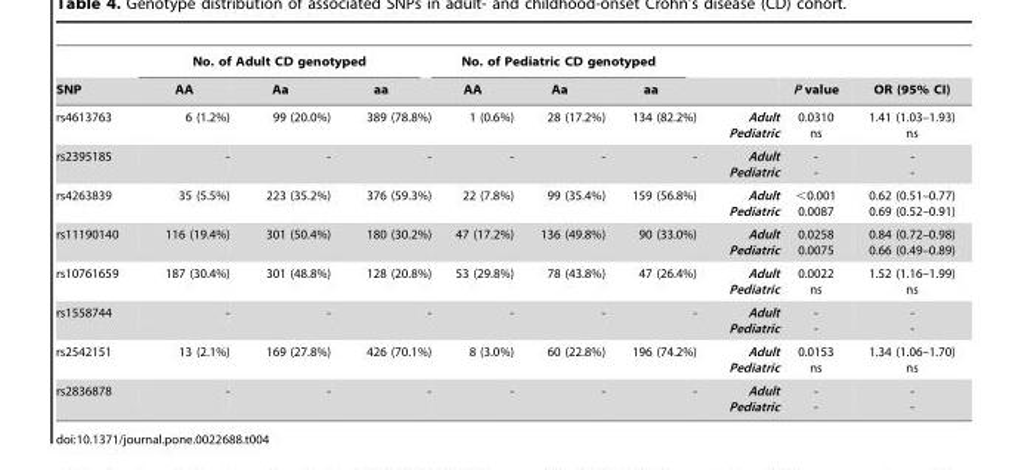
<table><thead><tr><td rowspan="2">SNP</td><td colspan="3">No. of Adult CD genotyped</td><td colspan="3">No. of Pediatric CD genotyped</td><td rowspan="2"></td><td rowspan="2">P value</td><td rowspan="2">OR (95% CI)</td></tr><tr><td>AA</td><td>Aa</td><td>aa</td><td>AA</td><td>Aa</td><td>aa</td></tr></thead><tbody><tr><td>rs4613763</td><td>6 (1.2%)</td><td>99 (20.0%)</td><td>389 (78.8%)</td><td>1 (0.6%)</td><td>28 (17.2%)</td><td>134 (82.2%)</td><td>Adult Pediatric</td><td>0.0310 ns</td><td>1.41 (1.03–1.93) ns</td></tr><tr><td>rs2395185</td><td>-</td><td>-</td><td>-</td><td>-</td><td>-</td><td>-</td><td>Adult Pediatric</td><td>- -</td><td>- -</td></tr><tr><td>rs4263839</td><td>35 (5.5%)</td><td>223 (35.2%)</td><td>376 (59.3%)</td><td>22 (7.8%)</td><td>99 (35.4%)</td><td>159 (56.8%)</td><td>Adult Pediatric</td><td>&lt;0.001 0.0087</td><td>0.62 (0.51–0.77) 0.69 (0.52–0.91)</td></tr><tr><td>rs11190140</td><td>116 (19.4%)</td><td>301 (50.4%)</td><td>180 (30.2%)</td><td>47 (17.2%)</td><td>136 (49.8%)</td><td>90 (33.0%)</td><td>Adult Pediatric</td><td>0.0258 0.0075</td><td>0.84 (0.72–0.98) 0.66 (0.49–0.89)</td></tr><tr><td>rs10761659</td><td>187 (30.4%)</td><td>301 (48.8%)</td><td>128 (20.8%)</td><td>53 (29.8%)</td><td>78 (43.8%)</td><td>47 (26.4%)</td><td>Adult Pediatric</td><td>0.0022 ns</td><td>1.52 (1.16–1.99) ns</td></tr><tr><td>rs1558744</td><td>-</td><td>-</td><td>-</td><td>-</td><td>-</td><td>-</td><td>Adult Pediatric</td><td>- -</td><td>- -</td></tr><tr><td>rs2542151</td><td>13 (2.1%)</td><td>169 (27.8%)</td><td>426 (70.1%)</td><td>8 (3.0%)</td><td>60 (22.8%)</td><td>196 (74.2%)</td><td>Adult Pediatric</td><td>0.0153 ns</td><td>1.34 (1.06–1.70) ns</td></tr><tr><td>rs2836878</td><td>-</td><td>-</td><td>-</td><td>-</td><td>-</td><td>-</td><td>Adult Pediatric</td><td>- -</td><td>- -</td></tr></tbody></table>